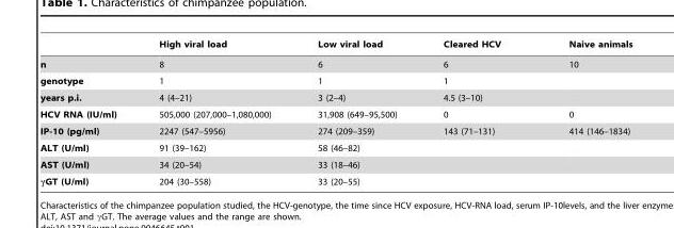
<table><thead><tr><td></td><td>High viral load</td><td>Low viral load</td><td>Cleared HCV</td><td>Naive animals</td></tr></thead><tbody><tr><td>n</td><td>8</td><td>6</td><td>6</td><td>10</td></tr><tr><td>genotype</td><td>1</td><td>1</td><td>1</td><td></td></tr><tr><td>years p.i.</td><td>4 (4–21)</td><td>3 (2–4)</td><td>4.5 (3–10)</td><td></td></tr><tr><td>HCV RNA (IU/ml)</td><td>505,000 (207,000–1,080,000)</td><td>31,908 (649–95,500)</td><td>0</td><td>0</td></tr><tr><td>IP-10 (pg/ml)</td><td>2247 (547–5956)</td><td>274 (209–359)</td><td>143 (71–131)</td><td>414 (146–1834)</td></tr><tr><td>ALT (U/ml)</td><td>91 (39–162)</td><td>58 (46–82)</td><td></td><td></td></tr><tr><td>AST (U/ml)</td><td>34 (20–54)</td><td>33 (18–46)</td><td></td><td></td></tr><tr><td>γGT (U/ml)</td><td>204 (30–558)</td><td>33 (20–55)</td><td></td><td></td></tr></tbody></table>